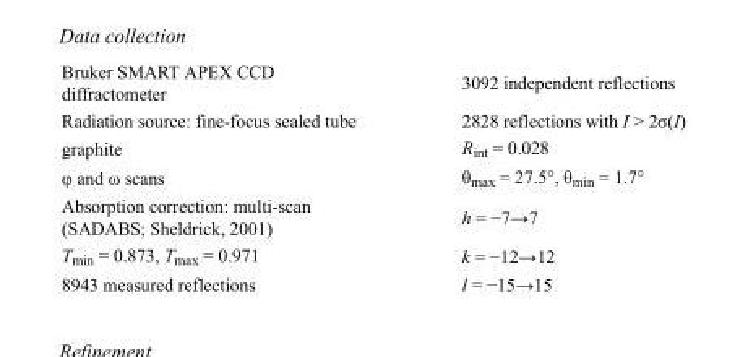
<table><tbody><tr><td>Bruker SMART APEX CCD diffractometer</td><td>3092 independent reflections</td></tr><tr><td>Radiation source: fine-focus sealed tube</td><td>2828 reflections with I &gt; 2σ(I)</td></tr><tr><td>graphite</td><td>R<sub>int</sub> = 0.028</td></tr><tr><td>φ and ω scans</td><td>θ<sub>max</sub> = 27.5°, θ<sub>min</sub> = 1.7°</td></tr><tr><td>Absorption correction: multi-scan (SADABS; Sheldrick, 2001)</td><td>h = −7→7</td></tr><tr><td>T<sub>min</sub> = 0.873, T<sub>max</sub> = 0.971</td><td>k = −12→12</td></tr><tr><td>8943 measured reflections</td><td>l = −15→15</td></tr></tbody></table>